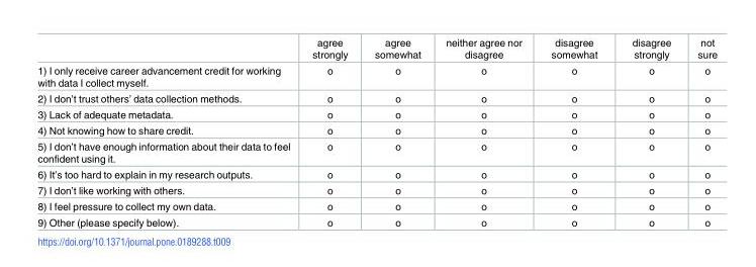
<table><thead><tr><td></td><td>agree strongly</td><td>agree somewhat</td><td>neither agree nor disagree</td><td>disagree somewhat</td><td>disagree strongly</td><td>not sure</td></tr></thead><tbody><tr><td>1) I only receive career advancement credit for working with data I collect myself.</td><td>o</td><td>o</td><td>o</td><td>o</td><td>o</td><td>o</td></tr><tr><td>2) I don’t trust others’ data collection methods.</td><td>o</td><td>o</td><td>o</td><td>o</td><td>o</td><td>o</td></tr><tr><td>3) Lack of adequate metadata.</td><td>o</td><td>o</td><td>o</td><td>o</td><td>o</td><td>o</td></tr><tr><td>4) Not knowing how to share credit.</td><td>o</td><td>o</td><td>o</td><td>o</td><td>o</td><td>o</td></tr><tr><td>5) I don’t have enough information about their data to feel confident using it.</td><td>o</td><td>o</td><td>o</td><td>o</td><td>o</td><td>o</td></tr><tr><td>6) It’s too hard to explain in my research outputs.</td><td>o</td><td>o</td><td>o</td><td>o</td><td>o</td><td>o</td></tr><tr><td>7) I don’t like working with others.</td><td>o</td><td>o</td><td>o</td><td>o</td><td>o</td><td>o</td></tr><tr><td>8) I feel pressure to collect my own data.</td><td>o</td><td>o</td><td>o</td><td>o</td><td>o</td><td>o</td></tr><tr><td>9) Other (please specify below).</td><td>o</td><td>o</td><td>o</td><td>o</td><td>o</td><td>o</td></tr></tbody></table>